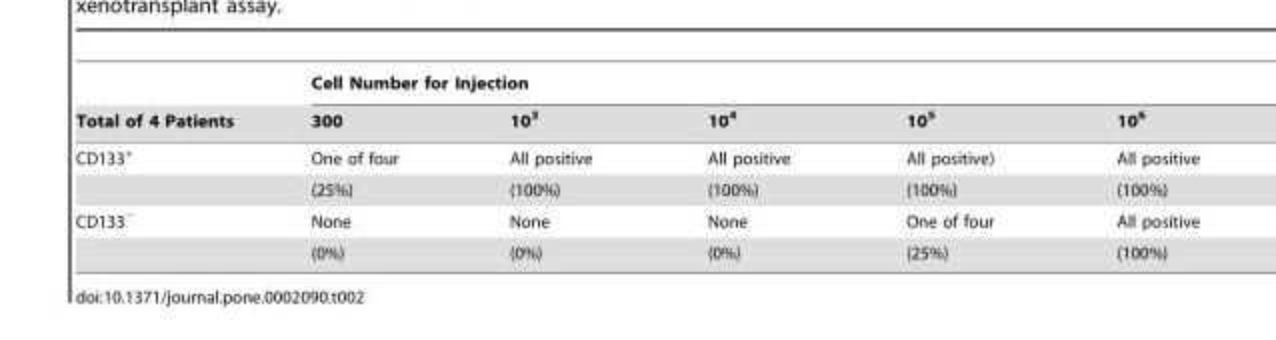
<table><thead><tr><td rowspan="2">Total of 4 Patients</td><td colspan="5">Cell Number for Injection</td></tr><tr><td>300</td><td>10<sup>3</sup></td><td>10<sup>4</sup></td><td>10<sup>5</sup></td><td>10<sup>6</sup></td></tr></thead><tbody><tr><td rowspan="2">CD133<sup>+</sup></td><td>One of four</td><td>All positive</td><td>All positive</td><td>All positive)</td><td>All positive</td></tr><tr><td>(25%)</td><td>(100%)</td><td>(100%)</td><td>(100%)</td><td>(100%)</td></tr><tr><td rowspan="2">CD133<sup>−</sup></td><td>None</td><td>None</td><td>None</td><td>One of four</td><td>All positive</td></tr><tr><td>(0%)</td><td>(0%)</td><td>(0%)</td><td>(25%)</td><td>(100%)</td></tr></tbody></table>